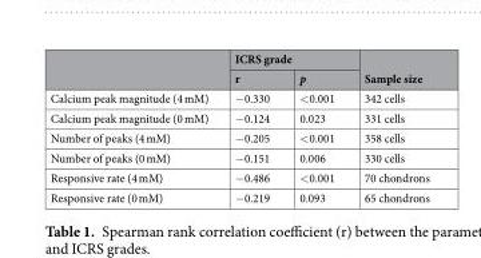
<table><thead><tr><td rowspan="2"></td><td colspan="2">ICRS grade</td><td rowspan="2">Sample size</td></tr><tr><td>r</td><td>p</td></tr></thead><tbody><tr><td>Calcium peak magnitude (4 mM)</td><td>−0.330</td><td>&lt;0.001</td><td>342 cells</td></tr><tr><td>Calcium peak magnitude (0 mM)</td><td>−0.124</td><td>0.023</td><td>331 cells</td></tr><tr><td>Number of peaks (4 mM)</td><td>−0.205</td><td>&lt;0.001</td><td>358 cells</td></tr><tr><td>Number of peaks (0 mM)</td><td>−0.151</td><td>0.006</td><td>330 cells</td></tr><tr><td>Responsive rate (4 mM)</td><td>−0.486</td><td>&lt;0.001</td><td>70 chondrons</td></tr><tr><td>Responsive rate (0 mM)</td><td>−0.219</td><td>0.093</td><td>65 chondrons</td></tr></tbody></table>